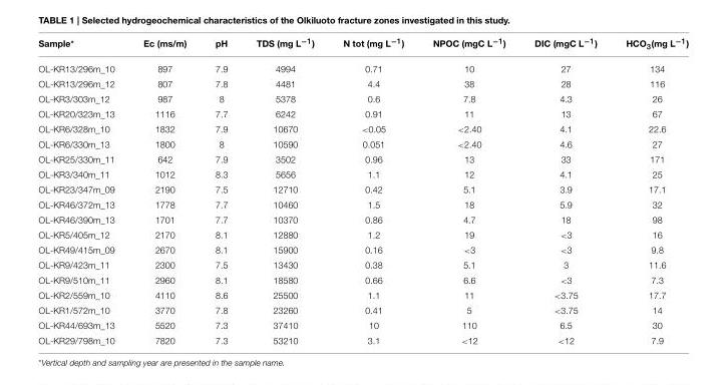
<table><thead><tr><td>Sample*</td><td>Ec (ms/m)</td><td>pH</td><td>TDS (mg L<sup>−1</sup>)</td><td>N tot (mg L<sup>−1</sup>)</td><td>NPOC (mgC L<sup>−1</sup>)</td><td>DIC (mgC L<sup>−1</sup>)</td><td>HCO<sub>3</sub>(mg L<sup>−1</sup>)</td></tr></thead><tbody><tr><td>OL-KR13/296m_10</td><td>897</td><td>7.9</td><td>4994</td><td>0.71</td><td>10</td><td>27</td><td>134</td></tr><tr><td>OL-KR13/296m_12</td><td>807</td><td>7.8</td><td>4481</td><td>4.4</td><td>38</td><td>28</td><td>116</td></tr><tr><td>OL-KR3/303m_12</td><td>987</td><td>8</td><td>5378</td><td>0.6</td><td>7.8</td><td>4.3</td><td>26</td></tr><tr><td>OL-KR20/323m_13</td><td>1116</td><td>7.7</td><td>6242</td><td>0.91</td><td>11</td><td>13</td><td>67</td></tr><tr><td>OL-KR6/328m_10</td><td>1832</td><td>7.9</td><td>10670</td><td>&lt;0.05</td><td>&lt;2.40</td><td>4.1</td><td>22.6</td></tr><tr><td>OL-KR6/330m_13</td><td>1800</td><td>8</td><td>10590</td><td>0.051</td><td>&lt;2.40</td><td>4.6</td><td>27</td></tr><tr><td>OL-KR25/330m_11</td><td>642</td><td>7.9</td><td>3502</td><td>0.96</td><td>13</td><td>33</td><td>171</td></tr><tr><td>OL-KR3/340m_11</td><td>1012</td><td>8.3</td><td>5656</td><td>1.1</td><td>12</td><td>4.1</td><td>25</td></tr><tr><td>OL-KR23/347m_09</td><td>2190</td><td>7.5</td><td>12710</td><td>0.42</td><td>5.1</td><td>3.9</td><td>17.1</td></tr><tr><td>OL-KR46/372m_13</td><td>1778</td><td>7.7</td><td>10460</td><td>1.5</td><td>18</td><td>5.9</td><td>32</td></tr><tr><td>OL-KR46/390m_13</td><td>1701</td><td>7.7</td><td>10370</td><td>0.86</td><td>4.7</td><td>18</td><td>98</td></tr><tr><td>OL-KR5/405m_12</td><td>2170</td><td>8.1</td><td>12880</td><td>1.2</td><td>19</td><td>&lt;3</td><td>16</td></tr><tr><td>OL-KR49/415m_09</td><td>2670</td><td>8.1</td><td>15900</td><td>0.16</td><td>&lt;3</td><td>&lt;3</td><td>9.8</td></tr><tr><td>OL-KR9/423m_11</td><td>2300</td><td>7.5</td><td>13430</td><td>0.38</td><td>5.1</td><td>3</td><td>11.6</td></tr><tr><td>OL-KR9/510m_11</td><td>2960</td><td>8.1</td><td>18580</td><td>0.66</td><td>6.6</td><td>&lt;3</td><td>7.3</td></tr><tr><td>OL-KR2/559m_10</td><td>4110</td><td>8.6</td><td>25500</td><td>1.1</td><td>11</td><td>&lt;3.75</td><td>17.7</td></tr><tr><td>OL-KR1/572m_10</td><td>3770</td><td>7.8</td><td>23260</td><td>0.41</td><td>5</td><td>&lt;3.75</td><td>14</td></tr><tr><td>OL-KR44/693m_13</td><td>5520</td><td>7.3</td><td>37410</td><td>10</td><td>110</td><td>6.5</td><td>30</td></tr><tr><td>OL-KR29/798m_10</td><td>7820</td><td>7.3</td><td>53210</td><td>3.1</td><td>&lt;12</td><td>&lt;12</td><td>7.9</td></tr></tbody></table>